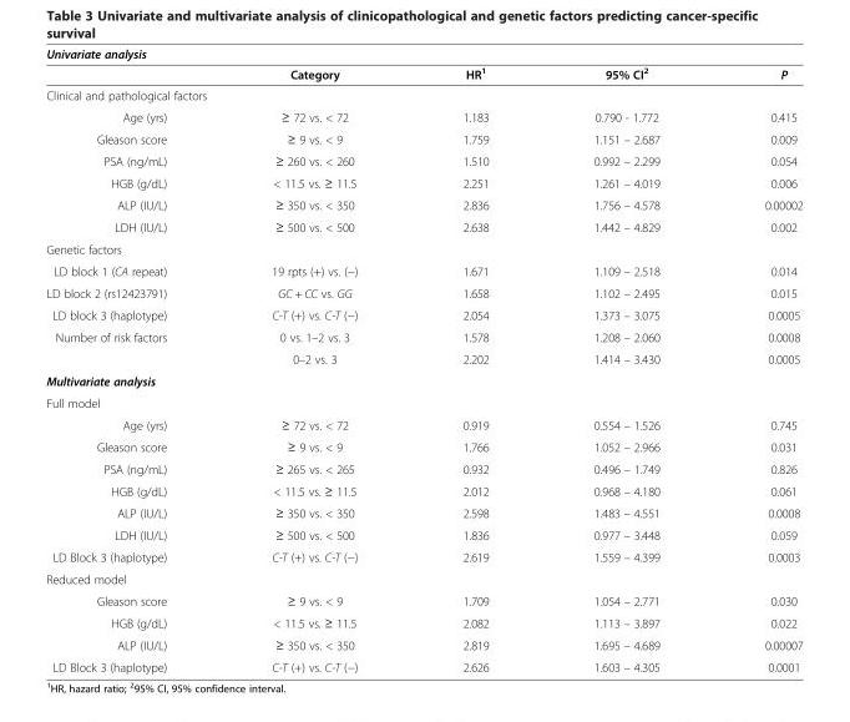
<table><thead><tr><td colspan="5">Univariate analysis</td></tr><tr><td></td><td>Category</td><td>HR<sup>1</sup></td><td>95% CI<sup>2</sup></td><td>P</td></tr></thead><tbody><tr><td colspan="5">Clinical and pathological factors</td></tr><tr><td>Age (yrs)</td><td>≥ 72 vs. &lt; 72</td><td>1.183</td><td>0.790 - 1.772</td><td>0.415</td></tr><tr><td>Gleason score</td><td>≥ 9 vs. &lt; 9</td><td>1.759</td><td>1.151 – 2.687</td><td>0.009</td></tr><tr><td>PSA (ng/mL)</td><td>≥ 260 vs. &lt; 260</td><td>1.510</td><td>0.992 – 2.299</td><td>0.054</td></tr><tr><td>HGB (g/dL)</td><td>&lt; 11.5 vs. ≥ 11.5</td><td>2.251</td><td>1.261 – 4.019</td><td>0.006</td></tr><tr><td>ALP (IU/L)</td><td>≥ 350 vs. &lt; 350</td><td>2.836</td><td>1.756 – 4.578</td><td>0.00002</td></tr><tr><td>LDH (IU/L)</td><td>≥ 500 vs. &lt; 500</td><td>2.638</td><td>1.442 – 4.829</td><td>0.002</td></tr><tr><td colspan="5">Genetic factors</td></tr><tr><td>LD block 1 (CA repeat)</td><td>19 rpts (+) vs. (−)</td><td>1.671</td><td>1.109 – 2.518</td><td>0.014</td></tr><tr><td>LD block 2 (rs12423791)</td><td>GC + CC vs. GG</td><td>1.658</td><td>1.102 – 2.495</td><td>0.015</td></tr><tr><td>LD block 3 (haplotype)</td><td>C-T (+) vs. C-T (−)</td><td>2.054</td><td>1.373 – 3.075</td><td>0.0005</td></tr><tr><td rowspan="2">Number of risk factors</td><td>0 vs. 1–2 vs. 3</td><td>1.578</td><td>1.208 – 2.060</td><td>0.0008</td></tr><tr><td>0–2 vs. 3</td><td>2.202</td><td>1.414 – 3.430</td><td>0.0005</td></tr><tr><td colspan="5">Multivariate analysis</td></tr><tr><td colspan="5">Full model</td></tr><tr><td>Age (yrs)</td><td>≥ 72 vs. &lt; 72</td><td>0.919</td><td>0.554 – 1.526</td><td>0.745</td></tr><tr><td>Gleason score</td><td>≥ 9 vs. &lt; 9</td><td>1.766</td><td>1.052 – 2.966</td><td>0.031</td></tr><tr><td>PSA (ng/mL)</td><td>≥ 265 vs. &lt; 265</td><td>0.932</td><td>0.496 – 1.749</td><td>0.826</td></tr><tr><td>HGB (g/dL)</td><td>&lt; 11.5 vs. ≥ 11.5</td><td>2.012</td><td>0.968 – 4.180</td><td>0.061</td></tr><tr><td>ALP (IU/L)</td><td>≥ 350 vs. &lt; 350</td><td>2.598</td><td>1.483 – 4.551</td><td>0.0008</td></tr><tr><td>LDH (IU/L)</td><td>≥ 500 vs. &lt; 500</td><td>1.836</td><td>0.977 – 3.448</td><td>0.059</td></tr><tr><td>LD Block 3 (haplotype)</td><td>C-T (+) vs. C-T (−)</td><td>2.619</td><td>1.559 – 4.399</td><td>0.0003</td></tr><tr><td colspan="5">Reduced model</td></tr><tr><td>Gleason score</td><td>≥ 9 vs. &lt; 9</td><td>1.709</td><td>1.054 – 2.771</td><td>0.030</td></tr><tr><td>HGB (g/dL)</td><td>&lt; 11.5 vs. ≥ 11.5</td><td>2.082</td><td>1.113 – 3.897</td><td>0.022</td></tr><tr><td>ALP (IU/L)</td><td>≥ 350 vs. &lt; 350</td><td>2.819</td><td>1.695 – 4.689</td><td>0.00007</td></tr><tr><td>LD Block 3 (haplotype)</td><td>C-T (+) vs. C-T (−)</td><td>2.626</td><td>1.603 – 4.305</td><td>0.0001</td></tr></tbody></table>